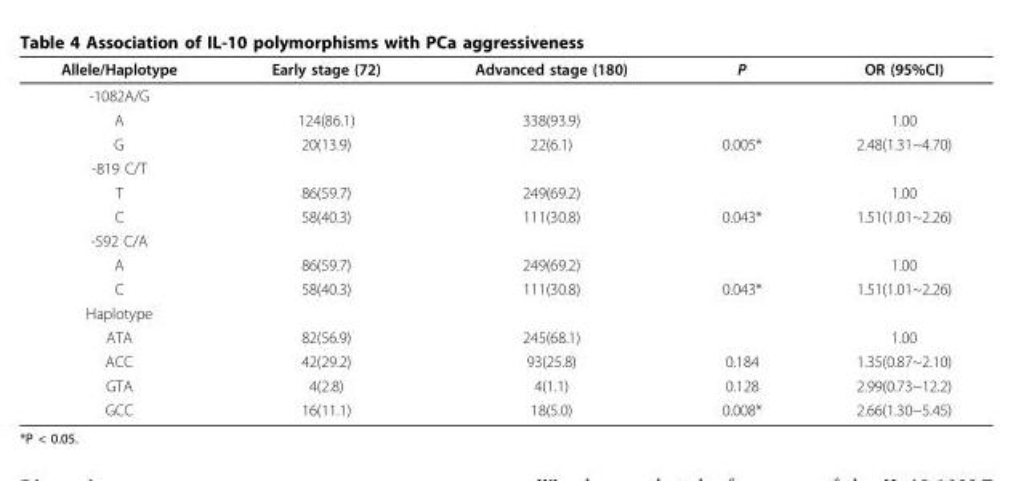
<table><thead><tr><td>Allele/Haplotype</td><td>Early stage (72)</td><td>Advanced stage (180)</td><td>P</td><td>OR (95%CI)</td></tr></thead><tbody><tr><td colspan="5">-1082A/G</td></tr><tr><td>A</td><td>124(86.1)</td><td>338(93.9)</td><td></td><td>1.00</td></tr><tr><td>G</td><td>20(13.9)</td><td>22(6.1)</td><td>0.005*</td><td>2.48(1.31~4.70)</td></tr><tr><td colspan="5">-819 C/T</td></tr><tr><td>T</td><td>86(59.7)</td><td>249(69.2)</td><td></td><td>1.00</td></tr><tr><td>C</td><td>58(40.3)</td><td>111(30.8)</td><td>0.043*</td><td>1.51(1.01~2.26)</td></tr><tr><td colspan="5">-592 C/A</td></tr><tr><td>A</td><td>86(59.7)</td><td>249(69.2)</td><td></td><td>1.00</td></tr><tr><td>C</td><td>58(40.3)</td><td>111(30.8)</td><td>0.043*</td><td>1.51(1.01~2.26)</td></tr><tr><td colspan="5">Haplotype</td></tr><tr><td>ATA</td><td>82(56.9)</td><td>245(68.1)</td><td></td><td>1.00</td></tr><tr><td>ACC</td><td>42(29.2)</td><td>93(25.8)</td><td>0.184</td><td>1.35(0.87~2.10)</td></tr><tr><td>GTA</td><td>4(2.8)</td><td>4(1.1)</td><td>0.128</td><td>2.99(0.73~12.2)</td></tr><tr><td>GCC</td><td>16(11.1)</td><td>18(5.0)</td><td>0.008*</td><td>2.66(1.30~5.45)</td></tr></tbody></table>